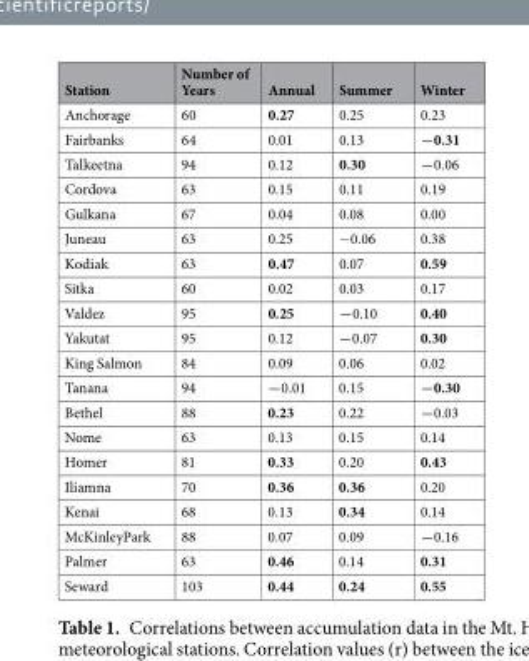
<table><thead><tr><td>Station</td><td>Number of Years</td><td>Annual</td><td>Summer</td><td>Winter</td></tr></thead><tbody><tr><td>Anchorage</td><td>60</td><td>0.27</td><td>0.25</td><td>0.23</td></tr><tr><td>Fairbanks</td><td>64</td><td>0.01</td><td>0.13</td><td>−0.31</td></tr><tr><td>Talkeetna</td><td>94</td><td>0.12</td><td>0.30</td><td>−0.06</td></tr><tr><td>Cordova</td><td>63</td><td>0.15</td><td>0.11</td><td>0.19</td></tr><tr><td>Gulkana</td><td>67</td><td>0.04</td><td>0.08</td><td>0.00</td></tr><tr><td>Juneau</td><td>63</td><td>0.25</td><td>−0.06</td><td>0.38</td></tr><tr><td>Kodiak</td><td>63</td><td>0.47</td><td>0.07</td><td>0.59</td></tr><tr><td>Sitka</td><td>60</td><td>0.02</td><td>0.03</td><td>0.17</td></tr><tr><td>Valdez</td><td>95</td><td>0.25</td><td>−0.10</td><td>0.40</td></tr><tr><td>Yakutat</td><td>95</td><td>0.12</td><td>−0.07</td><td>0.30</td></tr><tr><td>King Salmon</td><td>84</td><td>0.09</td><td>0.06</td><td>0.02</td></tr><tr><td>Tanana</td><td>94</td><td>−0.01</td><td>0.15</td><td>−0.30</td></tr><tr><td>Bethel</td><td>88</td><td>0.23</td><td>0.22</td><td>−0.03</td></tr><tr><td>Nome</td><td>63</td><td>0.13</td><td>0.15</td><td>0.14</td></tr><tr><td>Homer</td><td>81</td><td>0.33</td><td>0.20</td><td>0.43</td></tr><tr><td>Iliamna</td><td>70</td><td>0.36</td><td>0.36</td><td>0.20</td></tr><tr><td>Kenai</td><td>68</td><td>0.13</td><td>0.34</td><td>0.14</td></tr><tr><td>McKinleyPark</td><td>88</td><td>0.07</td><td>0.09</td><td>−0.16</td></tr><tr><td>Palmer</td><td>63</td><td>0.46</td><td>0.14</td><td>0.31</td></tr><tr><td>Seward</td><td>103</td><td>0.44</td><td>0.24</td><td>0.55</td></tr></tbody></table>